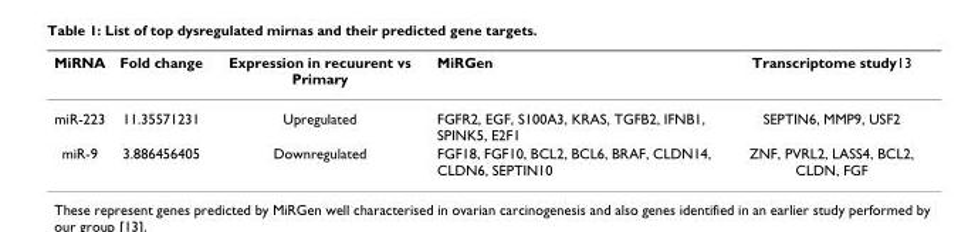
<table><thead><tr><td>MiRNA</td><td>Fold change</td><td>Expression in recuurent vs Primary</td><td>MiRGen</td><td>Transcriptome study<sup>13</sup></td></tr></thead><tbody><tr><td>miR-223</td><td>11.35571231</td><td>Upregulated</td><td>FGFR2, EGF, S100A3, KRAS, TGFB2, IFNB1, SPINK5, E2F1</td><td>SEPTIN6, MMP9, USF2</td></tr><tr><td>miR-9</td><td>3.886456405</td><td>Downregulated</td><td>FGF18, FGF10, BCL2, BCL6, BRAF, CLDN14, CLDN6, SEPTIN10</td><td>ZNF, PVRL2, LASS4, BCL2, CLDN, FGF</td></tr></tbody></table>